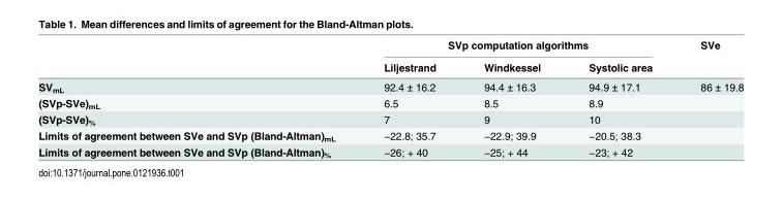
<table><thead><tr><td rowspan="2"></td><td colspan="3">SVp computation algorithms</td><td rowspan="2">SVe</td></tr><tr><td>Liljestrand</td><td>Windkessel</td><td>Systolic area</td></tr></thead><tbody><tr><td>SV<sub>mL</sub></td><td>92.4 ± 16.2</td><td>94.4 ± 16.3</td><td>94.9 ± 17.1</td><td>86 ± 19.8</td></tr><tr><td>(SVp-SVe)<sub>mL</sub></td><td>6.5</td><td>8.5</td><td>8.9</td><td></td></tr><tr><td>(SVp-SVe)<sub>%</sub></td><td>7</td><td>9</td><td>10</td><td></td></tr><tr><td>Limits of agreement between SVe and SVp (Bland-Altman)<sub>mL</sub></td><td>−22.8; 35.7</td><td>−22.9; 39.9</td><td>−20.5; 38.3</td><td></td></tr><tr><td>Limits of agreement between SVe and SVp (Bland-Altman)<sub>%</sub></td><td>−26; + 40</td><td>−25; + 44</td><td>−23; + 42</td><td></td></tr></tbody></table>